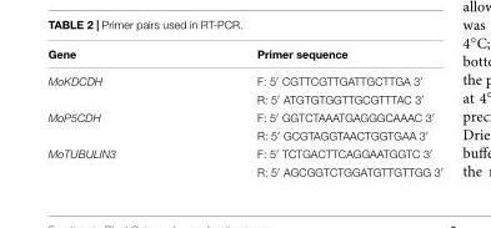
<table><thead><tr><td>Gene</td><td>Primer sequence</td></tr></thead><tbody><tr><td rowspan="2">MoKDCDH</td><td>F: 5′ CGTTCGTTGATTGCTTGA 3′</td></tr><tr><td>R: 5′ ATGTGTGGTTGCGTTTAC 3′</td></tr><tr><td rowspan="2">MoP5CDH</td><td>F: 5′ GGTCTAAATGAGGGCAAAC 3′</td></tr><tr><td>R: 5′ GCGTAGGTAACTGGTGAA 3′</td></tr><tr><td rowspan="2">MoTUBULIN3</td><td>F: 5′ TCTGACTTCAGGAATGGTC 3′</td></tr><tr><td>R: 5′ AGCGGTCTGGATGTTGTTGG 3′</td></tr></tbody></table>